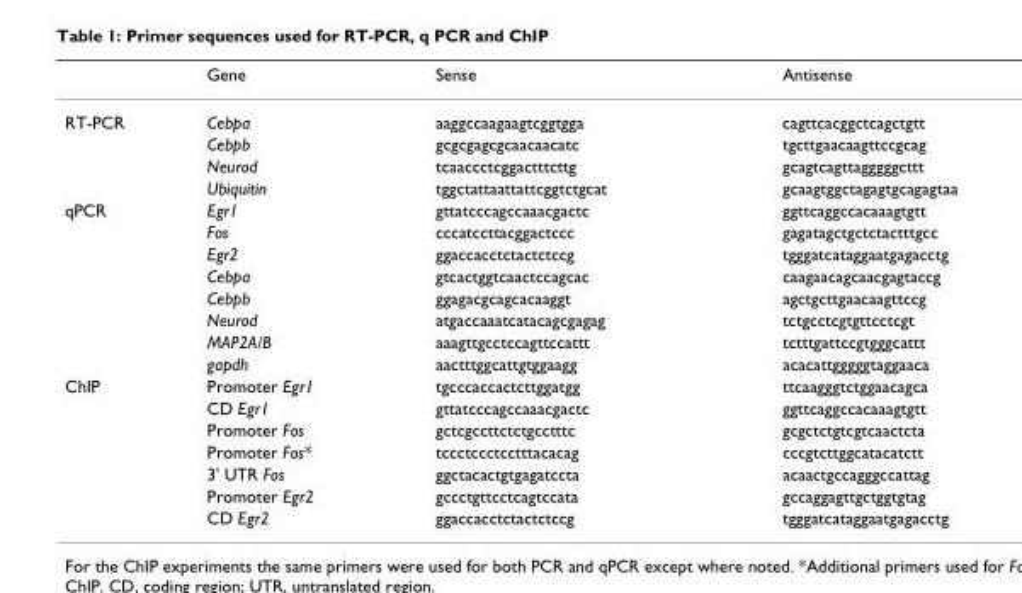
<table><thead><tr><td></td><td>Gene</td><td>Sense</td><td>Antisense</td></tr></thead><tbody><tr><td rowspan="4">RT-PCR</td><td>Cebpa</td><td>aaggccaagaagtcggtgga</td><td>cagttcacggctcagctgtt</td></tr><tr><td>Cebpb</td><td>gcgcgagcgcaacaacatc</td><td>tgcttgaacaagttccgcag</td></tr><tr><td>Neurod</td><td>tcaaccctcggactttcttg</td><td>gcagtcagttagggggcttt</td></tr><tr><td>Ubiquitin</td><td>tggctattaattattcggtctgcat</td><td>gcaagtggctagagtgcagagtaa</td></tr><tr><td rowspan="8">qPCR</td><td>Egr1</td><td>gttatcccagccaaacgactc</td><td>ggttcaggccacaaagtgtt</td></tr><tr><td>Fos</td><td>cccatccttacggactccc</td><td>gagatagctgctctactttgcc</td></tr><tr><td>Egr2</td><td>ggaccacctctactctccg</td><td>tgggatcataggaatgagacctg</td></tr><tr><td>Cebpa</td><td>gtcactggtcaactccagcac</td><td>caagaacagcaacgagtaccg</td></tr><tr><td>Cebpb</td><td>ggagacgcagcacaaggt</td><td>agctgcttgaacaagttccg</td></tr><tr><td>Neurod</td><td>atgaccaaatcatacagcgagag</td><td>tctgcctcgtgttcctcgt</td></tr><tr><td>MAP2A/B</td><td>aaagttgcctccagttccattt</td><td>tctttgattccgtgggcattt</td></tr><tr><td>gapdh</td><td>aactttggcattgtggaagg</td><td>acacattgggggtaggaaca</td></tr><tr><td rowspan="7">ChIP</td><td>Promoter Egr1</td><td>tgcccaccactcttggatgg</td><td>ttcaagggtctggaacagca</td></tr><tr><td>CD Egr1</td><td>gttatcccagccaaacgactc</td><td>ggttcaggccacaaagtgtt</td></tr><tr><td>Promoter Fos</td><td>gctcgccttctctgcctttc</td><td>gcgctctgtcgtcaactcta</td></tr><tr><td>Promoter Fos*</td><td>tccctccctcctttacacag</td><td>cccgtcttggcatacatctt</td></tr><tr><td>3&#x27; UTR Fos</td><td>ggctacactgtgagatccta</td><td>acaactgccagggccattag</td></tr><tr><td>Promoter Egr2</td><td>gccctgttcctcagtccata</td><td>gccaggagttgctggtgtag</td></tr><tr><td>CD Egr2</td><td>ggaccacctctactctccg</td><td>tgggatcataggaatgagacctg</td></tr></tbody></table>